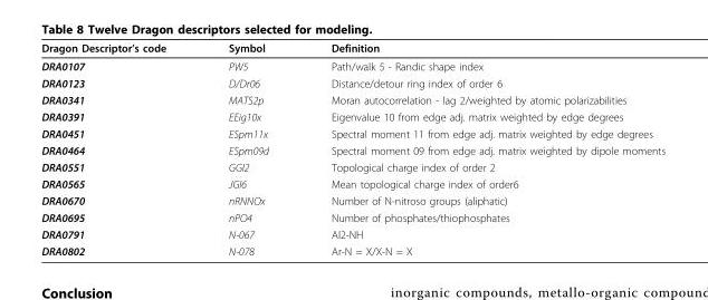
<table><thead><tr><td>Dragon Descriptor’s code</td><td>Symbol</td><td>Definition</td></tr></thead><tbody><tr><td>DRA0107</td><td>PW5</td><td>Path/walk 5 - Randic shape index</td></tr><tr><td>DRA0123</td><td>D/Dr06</td><td>Distance/detour ring index of order 6</td></tr><tr><td>DRA0341</td><td>MATS2p</td><td>Moran autocorrelation - lag 2/weighted by atomic polarizabilities</td></tr><tr><td>DRA0391</td><td>EEig10x</td><td>Eigenvalue 10 from edge adj. matrix weighted by edge degrees</td></tr><tr><td>DRA0451</td><td>ESpm11x</td><td>Spectral moment 11 from edge adj. matrix weighted by edge degrees</td></tr><tr><td>DRA0464</td><td>ESpm09d</td><td>Spectral moment 09 from edge adj. matrix weighted by dipole moments</td></tr><tr><td>DRA0551</td><td>GGI2</td><td>Topological charge index of order 2</td></tr><tr><td>DRA0565</td><td>JGI6</td><td>Mean topological charge index of order6</td></tr><tr><td>DRA0670</td><td>nRNNOx</td><td>Number of N-nitroso groups (aliphatic)</td></tr><tr><td>DRA0695</td><td>nPO4</td><td>Number of phosphates/thiophosphates</td></tr><tr><td>DRA0791</td><td>N-067</td><td>Al2-NH</td></tr><tr><td>DRA0802</td><td>N-078</td><td>Ar-N = X/X-N = X</td></tr></tbody></table>